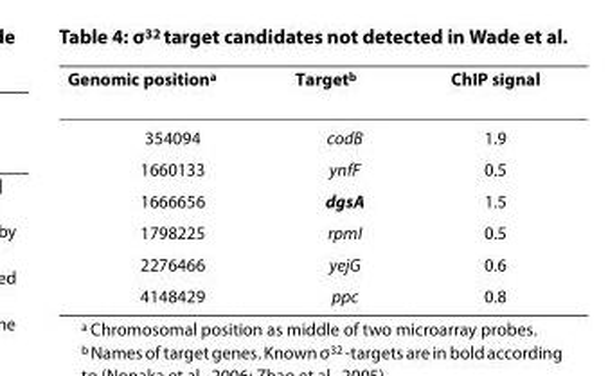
<table><thead><tr><td>Genomic position<sup>a</sup></td><td>Target<sup>b</sup></td><td>ChIP signal</td></tr></thead><tbody><tr><td>354094</td><td>codB</td><td>1.9</td></tr><tr><td>1660133</td><td>ynfF</td><td>0.5</td></tr><tr><td>1666656</td><td>dgsA</td><td>1.5</td></tr><tr><td>1798225</td><td>rpmI</td><td>0.5</td></tr><tr><td>2276466</td><td>yejG</td><td>0.6</td></tr><tr><td>4148429</td><td>ppc</td><td>0.8</td></tr></tbody></table>